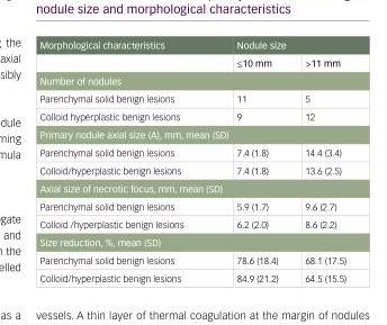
<table><thead><tr><td rowspan="2">Morphological characteristics</td><td colspan="2">Nodule size</td></tr><tr><td>≤10 mm</td><td>&gt;11 mm</td></tr></thead><tbody><tr><td colspan="3">Number of nodules</td></tr><tr><td>Parenchymal solid benign lesions</td><td>11</td><td>5</td></tr><tr><td>Colloid hyperplastic benign lesions</td><td>9</td><td>12</td></tr><tr><td colspan="3">Primary nodule axial size (A), mm, mean (SD)</td></tr><tr><td>Parenchymal solid benign lesions</td><td>7.4 (1.8)</td><td>14.4 (3.4)</td></tr><tr><td>Colloid/hyperplastic benign lesions</td><td>7.4 (1.8)</td><td>13.6 (2.5)</td></tr><tr><td colspan="3">Axial size of necrotic focus, mm, mean (SD)</td></tr><tr><td>Parenchymal solid benign lesions</td><td>5.9 (1.7)</td><td>9.6 (2.7)</td></tr><tr><td>Colloid /hyperplastic benign lesions</td><td>6.2 (2.0)</td><td>8.6 (2.2)</td></tr><tr><td colspan="3">Size reduction, %, mean (SD)</td></tr><tr><td>Parenchymal solid benign lesions</td><td>78.6 (18.4)</td><td>68.1 (17.5)</td></tr><tr><td>Colloid/hyperplastic benign lesions</td><td>84.9 (21.2)</td><td>64.5 (15.5)</td></tr></tbody></table>